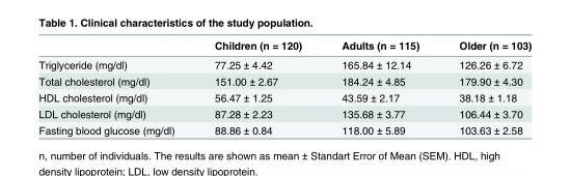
<table><thead><tr><td></td><td>Children (n = 120)</td><td>Adults (n = 115)</td><td>Older (n = 103)</td></tr></thead><tbody><tr><td>Triglyceride (mg/dl)</td><td>77.25 ± 4.42</td><td>165.84 ± 12.14</td><td>126.26 ± 6.72</td></tr><tr><td>Total cholesterol (mg/dl)</td><td>151.00 ± 2.67</td><td>184.24 ± 4.85</td><td>179.90 ± 4.30</td></tr><tr><td>HDL cholesterol (mg/dl)</td><td>56.47 ± 1.25</td><td>43.59 ± 2.17</td><td>38.18 ± 1.18</td></tr><tr><td>LDL cholesterol (mg/dl)</td><td>87.28 ± 2.23</td><td>135.68 ± 3.77</td><td>106.44 ± 3.70</td></tr><tr><td>Fasting blood glucose (mg/dl)</td><td>88.86 ± 0.84</td><td>118.00 ± 5.89</td><td>103.63 ± 2.58</td></tr></tbody></table>